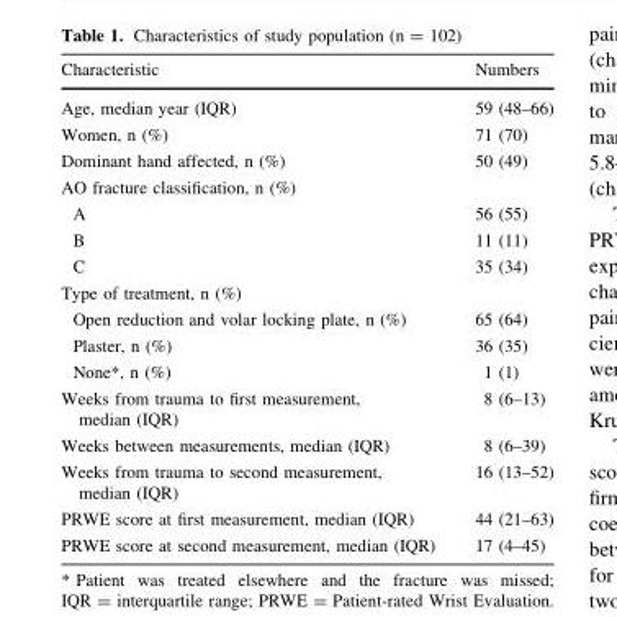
<table><thead><tr><td>Characteristic</td><td>Numbers</td></tr></thead><tbody><tr><td>Age, median year (IQR)</td><td>59 (48–66)</td></tr><tr><td>Women, n (%)</td><td>71 (70)</td></tr><tr><td>Dominant hand affected, n (%)</td><td>50 (49)</td></tr><tr><td colspan="2">AO fracture classification, n (%)</td></tr><tr><td>A</td><td>56 (55)</td></tr><tr><td>B</td><td>11 (11)</td></tr><tr><td>C</td><td>35 (34)</td></tr><tr><td colspan="2">Type of treatment, n (%)</td></tr><tr><td>Open reduction and volar locking plate, n (%)</td><td>65 (64)</td></tr><tr><td>Plaster, n (%)</td><td>36 (35)</td></tr><tr><td>None*, n (%)</td><td>1 (1)</td></tr><tr><td>Weeks from trauma to first measurement, median (IQR)</td><td>8 (6–13)</td></tr><tr><td>Weeks between measurements, median (IQR)</td><td>8 (6–39)</td></tr><tr><td>Weeks from trauma to second measurement, median (IQR)</td><td>16 (13–52)</td></tr><tr><td>PRWE score at first measurement, median (IQR)</td><td>44 (21–63)</td></tr><tr><td>PRWE score at second measurement, median (IQR)</td><td>17 (4–45)</td></tr></tbody></table>